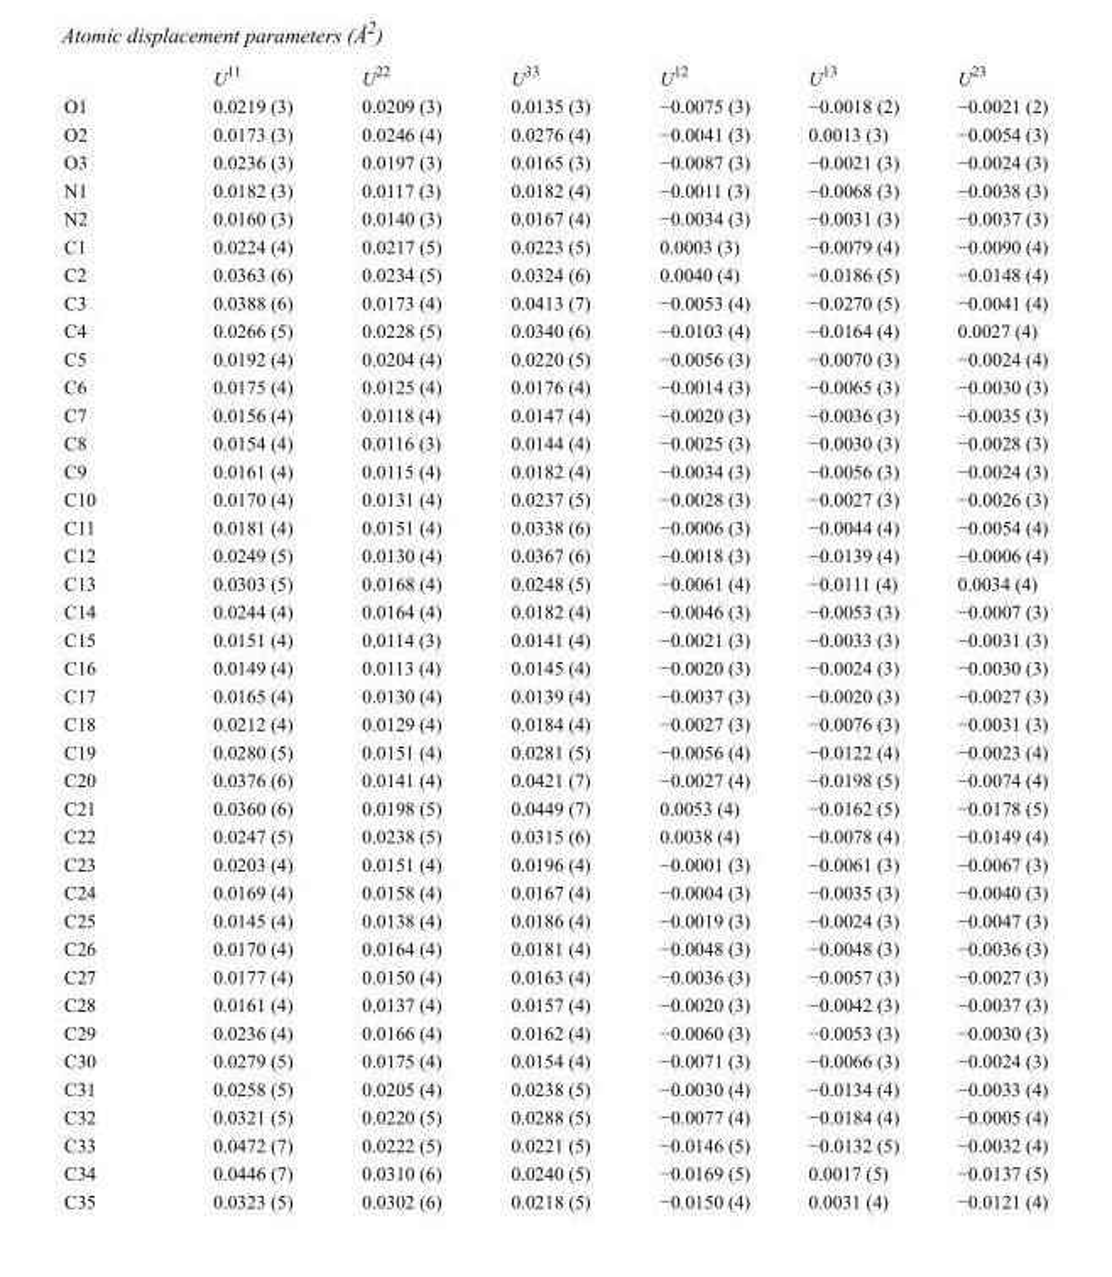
<table><thead><tr><td></td><td>U<sup>11</sup></td><td>U<sup>22</sup></td><td>U<sup>33</sup></td><td>U<sup>12</sup></td><td>U<sup>13</sup></td><td>U<sup>23</sup></td></tr></thead><tbody><tr><td>O1</td><td>0.0219 (3)</td><td>0.0209 (3)</td><td>0.0135 (3)</td><td>−0.0075 (3)</td><td>−0.0018 (2)</td><td>−0.0021 (2)</td></tr><tr><td>O2</td><td>0.0173 (3)</td><td>0.0246 (4)</td><td>0.0276 (4)</td><td>−0.0041 (3)</td><td>0.0013 (3)</td><td>−0.0054 (3)</td></tr><tr><td>O3</td><td>0.0236 (3)</td><td>0.0197 (3)</td><td>0.0165 (3)</td><td>−0.0087 (3)</td><td>−0.0021 (3)</td><td>−0.0024 (3)</td></tr><tr><td>N1</td><td>0.0182 (3)</td><td>0.0117 (3)</td><td>0.0182 (4)</td><td>−0.0011 (3)</td><td>−0.0068 (3)</td><td>−0.0038 (3)</td></tr><tr><td>N2</td><td>0.0160 (3)</td><td>0.0140 (3)</td><td>0.0167 (4)</td><td>−0.0034 (3)</td><td>−0.0031 (3)</td><td>−0.0037 (3)</td></tr><tr><td>C1</td><td>0.0224 (4)</td><td>0.0217 (5)</td><td>0.0223 (5)</td><td>0.0003 (3)</td><td>−0.0079 (4)</td><td>−0.0090 (4)</td></tr><tr><td>C2</td><td>0.0363 (6)</td><td>0.0234 (5)</td><td>0.0324 (6)</td><td>0.0040 (4)</td><td>−0.0186 (5)</td><td>−0.0148 (4)</td></tr><tr><td>C3</td><td>0.0388 (6)</td><td>0.0173 (4)</td><td>0.0413 (7)</td><td>−0.0053 (4)</td><td>−0.0270 (5)</td><td>−0.0041 (4)</td></tr><tr><td>C4</td><td>0.0266 (5)</td><td>0.0228 (5)</td><td>0.0340 (6)</td><td>−0.0103 (4)</td><td>−0.0164 (4)</td><td>0.0027 (4)</td></tr><tr><td>C5</td><td>0.0192 (4)</td><td>0.0204 (4)</td><td>0.0220 (5)</td><td>−0.0056 (3)</td><td>−0.0070 (3)</td><td>−0.0024 (4)</td></tr><tr><td>C6</td><td>0.0175 (4)</td><td>0.0125 (4)</td><td>0.0176 (4)</td><td>−0.0014 (3)</td><td>−0.0065 (3)</td><td>−0.0030 (3)</td></tr><tr><td>C7</td><td>0.0156 (4)</td><td>0.0118 (4)</td><td>0.0147 (4)</td><td>−0.0020 (3)</td><td>−0.0036 (3)</td><td>−0.0035 (3)</td></tr><tr><td>C8</td><td>0.0154 (4)</td><td>0.0116 (3)</td><td>0.0144 (4)</td><td>−0.0025 (3)</td><td>−0.0030 (3)</td><td>−0.0028 (3)</td></tr><tr><td>C9</td><td>0.0161 (4)</td><td>0.0115 (4)</td><td>0.0182 (4)</td><td>−0.0034 (3)</td><td>−0.0056 (3)</td><td>−0.0024 (3)</td></tr><tr><td>C10</td><td>0.0170 (4)</td><td>0.0131 (4)</td><td>0.0237 (5)</td><td>−0.0028 (3)</td><td>−0.0027 (3)</td><td>−0.0026 (3)</td></tr><tr><td>C11</td><td>0.0181 (4)</td><td>0.0151 (4)</td><td>0.0338 (6)</td><td>−0.0006 (3)</td><td>−0.0044 (4)</td><td>−0.0054 (4)</td></tr><tr><td>C12</td><td>0.0249 (5)</td><td>0.0130 (4)</td><td>0.0367 (6)</td><td>−0.0018 (3)</td><td>−0.0139 (4)</td><td>−0.0006 (4)</td></tr><tr><td>C13</td><td>0.0303 (5)</td><td>0.0168 (4)</td><td>0.0248 (5)</td><td>−0.0061 (4)</td><td>−0.0111 (4)</td><td>0.0034 (4)</td></tr><tr><td>C14</td><td>0.0244 (4)</td><td>0.0164 (4)</td><td>0.0182 (4)</td><td>−0.0046 (3)</td><td>−0.0053 (3)</td><td>−0.0007 (3)</td></tr><tr><td>C15</td><td>0.0151 (4)</td><td>0.0114 (3)</td><td>0.0141 (4)</td><td>−0.0021 (3)</td><td>−0.0033 (3)</td><td>−0.0031 (3)</td></tr><tr><td>C16</td><td>0.0149 (4)</td><td>0.0113 (4)</td><td>0.0145 (4)</td><td>−0.0020 (3)</td><td>−0.0024 (3)</td><td>−0.0030 (3)</td></tr><tr><td>C17</td><td>0.0165 (4)</td><td>0.0130 (4)</td><td>0.0139 (4)</td><td>−0.0037 (3)</td><td>−0.0020 (3)</td><td>−0.0027 (3)</td></tr><tr><td>C18</td><td>0.0212 (4)</td><td>0.0129 (4)</td><td>0.0184 (4)</td><td>−0.0027 (3)</td><td>−0.0076 (3)</td><td>−0.0031 (3)</td></tr><tr><td>C19</td><td>0.0280 (5)</td><td>0.0151 (4)</td><td>0.0281 (5)</td><td>−0.0056 (4)</td><td>−0.0122 (4)</td><td>−0.0023 (4)</td></tr><tr><td>C20</td><td>0.0376 (6)</td><td>0.0141 (4)</td><td>0.0421 (7)</td><td>−0.0027 (4)</td><td>−0.0198 (5)</td><td>−0.0074 (4)</td></tr><tr><td>C21</td><td>0.0360 (6)</td><td>0.0198 (5)</td><td>0.0449 (7)</td><td>0.0053 (4)</td><td>−0.0162 (5)</td><td>−0.0178 (5)</td></tr><tr><td>C22</td><td>0.0247 (5)</td><td>0.0238 (5)</td><td>0.0315 (6)</td><td>0.0038 (4)</td><td>−0.0078 (4)</td><td>−0.0149 (4)</td></tr><tr><td>C23</td><td>0.0203 (4)</td><td>0.0151 (4)</td><td>0.0196 (4)</td><td>−0.0001 (3)</td><td>−0.0061 (3)</td><td>−0.0067 (3)</td></tr><tr><td>C24</td><td>0.0169 (4)</td><td>0.0158 (4)</td><td>0.0167 (4)</td><td>−0.0004 (3)</td><td>−0.0035 (3)</td><td>−0.0040 (3)</td></tr><tr><td>C25</td><td>0.0145 (4)</td><td>0.0138 (4)</td><td>0.0186 (4)</td><td>−0.0019 (3)</td><td>−0.0024 (3)</td><td>−0.0047 (3)</td></tr><tr><td>C26</td><td>0.0170 (4)</td><td>0.0164 (4)</td><td>0.0181 (4)</td><td>−0.0048 (3)</td><td>−0.0048 (3)</td><td>−0.0036 (3)</td></tr><tr><td>C27</td><td>0.0177 (4)</td><td>0.0150 (4)</td><td>0.0163 (4)</td><td>−0.0036 (3)</td><td>−0.0057 (3)</td><td>−0.0027 (3)</td></tr><tr><td>C28</td><td>0.0161 (4)</td><td>0.0137 (4)</td><td>0.0157 (4)</td><td>−0.0020 (3)</td><td>−0.0042 (3)</td><td>−0.0037 (3)</td></tr><tr><td>C29</td><td>0.0236 (4)</td><td>0.0166 (4)</td><td>0.0162 (4)</td><td>−0.0060 (3)</td><td>−0.0053 (3)</td><td>−0.0030 (3)</td></tr><tr><td>C30</td><td>0.0279 (5)</td><td>0.0175 (4)</td><td>0.0154 (4)</td><td>−0.0071 (3)</td><td>−0.0066 (3)</td><td>−0.0024 (3)</td></tr><tr><td>C31</td><td>0.0258 (5)</td><td>0.0205 (4)</td><td>0.0238 (5)</td><td>−0.0030 (4)</td><td>−0.0134 (4)</td><td>−0.0033 (4)</td></tr><tr><td>C32</td><td>0.0321 (5)</td><td>0.0220 (5)</td><td>0.0288 (5)</td><td>−0.0077 (4)</td><td>−0.0184 (4)</td><td>−0.0005 (4)</td></tr><tr><td>C33</td><td>0.0472 (7)</td><td>0.0222 (5)</td><td>0.0221 (5)</td><td>−0.0146 (5)</td><td>−0.0132 (5)</td><td>−0.0032 (4)</td></tr><tr><td>C34</td><td>0.0446 (7)</td><td>0.0310 (6)</td><td>0.0240 (5)</td><td>−0.0169 (5)</td><td>0.0017 (5)</td><td>−0.0137 (5)</td></tr><tr><td>C35</td><td>0.0323 (5)</td><td>0.0302 (6)</td><td>0.0218 (5)</td><td>−0.0150 (4)</td><td>0.0031 (4)</td><td>−0.0121 (4)</td></tr></tbody></table>